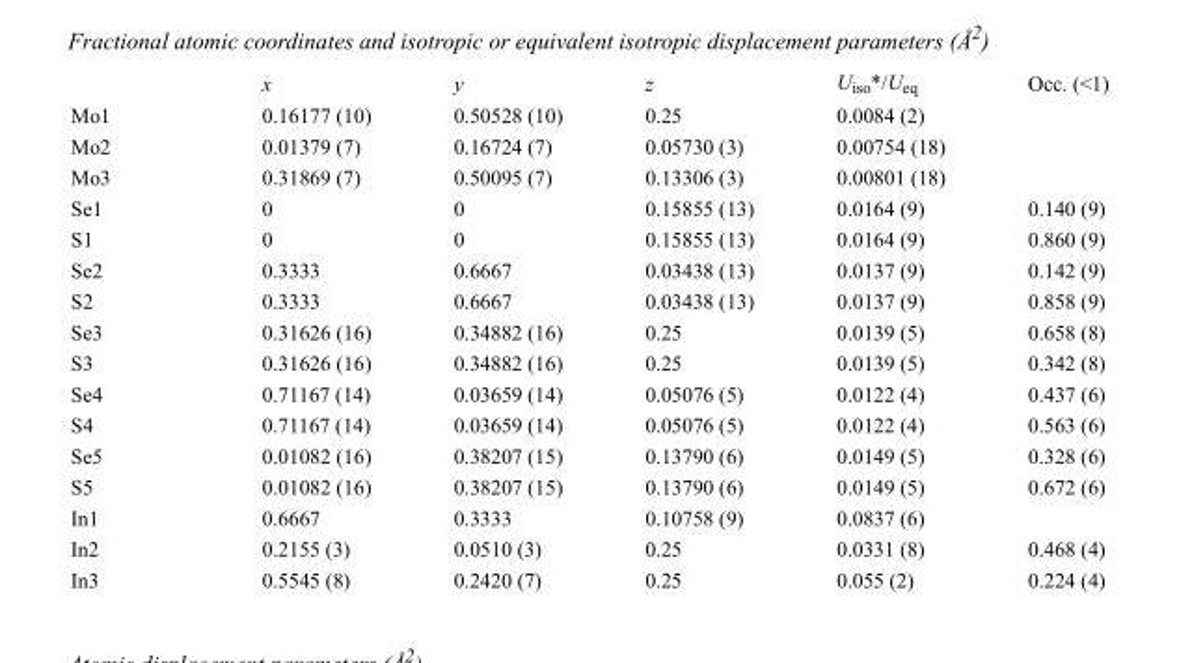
<table><thead><tr><td></td><td>x</td><td>y</td><td>z</td><td>U<sub>iso</sub>*/U<sub>eq</sub></td><td>Occ. (&lt;1)</td></tr></thead><tbody><tr><td>Mo1</td><td>0.16177 (10)</td><td>0.50528 (10)</td><td>0.25</td><td>0.0084 (2)</td><td></td></tr><tr><td>Mo2</td><td>0.01379 (7)</td><td>0.16724 (7)</td><td>0.05730 (3)</td><td>0.00754 (18)</td><td></td></tr><tr><td>Mo3</td><td>0.31869 (7)</td><td>0.50095 (7)</td><td>0.13306 (3)</td><td>0.00801 (18)</td><td></td></tr><tr><td>Se1</td><td>0</td><td>0</td><td>0.15855 (13)</td><td>0.0164 (9)</td><td>0.140 (9)</td></tr><tr><td>S1</td><td>0</td><td>0</td><td>0.15855 (13)</td><td>0.0164 (9)</td><td>0.860 (9)</td></tr><tr><td>Se2</td><td>0.3333</td><td>0.6667</td><td>0.03438 (13)</td><td>0.0137 (9)</td><td>0.142 (9)</td></tr><tr><td>S2</td><td>0.3333</td><td>0.6667</td><td>0.03438 (13)</td><td>0.0137 (9)</td><td>0.858 (9)</td></tr><tr><td>Se3</td><td>0.31626 (16)</td><td>0.34882 (16)</td><td>0.25</td><td>0.0139 (5)</td><td>0.658 (8)</td></tr><tr><td>S3</td><td>0.31626 (16)</td><td>0.34882 (16)</td><td>0.25</td><td>0.0139 (5)</td><td>0.342 (8)</td></tr><tr><td>Se4</td><td>0.71167 (14)</td><td>0.03659 (14)</td><td>0.05076 (5)</td><td>0.0122 (4)</td><td>0.437 (6)</td></tr><tr><td>S4</td><td>0.71167 (14)</td><td>0.03659 (14)</td><td>0.05076 (5)</td><td>0.0122 (4)</td><td>0.563 (6)</td></tr><tr><td>Se5</td><td>0.01082 (16)</td><td>0.38207 (15)</td><td>0.13790 (6)</td><td>0.0149 (5)</td><td>0.328 (6)</td></tr><tr><td>S5</td><td>0.01082 (16)</td><td>0.38207 (15)</td><td>0.13790 (6)</td><td>0.0149 (5)</td><td>0.672 (6)</td></tr><tr><td>In1</td><td>0.6667</td><td>0.3333</td><td>0.10758 (9)</td><td>0.0837 (6)</td><td></td></tr><tr><td>In2</td><td>0.2155 (3)</td><td>0.0510 (3)</td><td>0.25</td><td>0.0331 (8)</td><td>0.468 (4)</td></tr><tr><td>In3</td><td>0.5545 (8)</td><td>0.2420 (7)</td><td>0.25</td><td>0.055 (2)</td><td>0.224 (4)</td></tr></tbody></table>